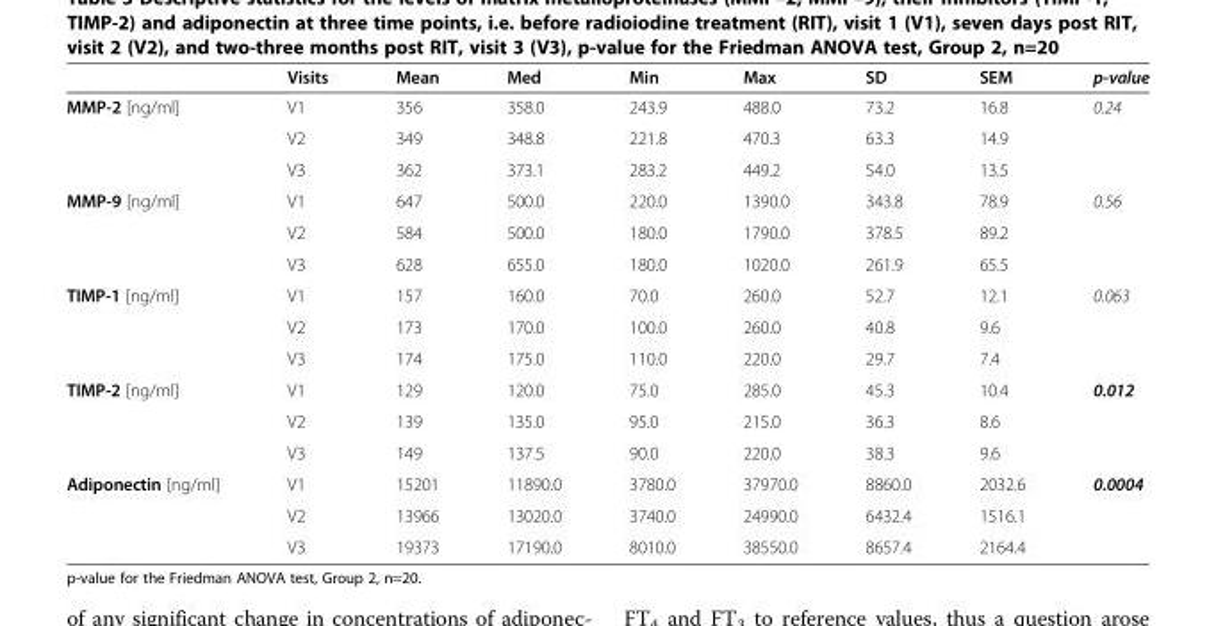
<table><thead><tr><td></td><td>Visits</td><td>Mean</td><td>Med</td><td>Min</td><td>Max</td><td>SD</td><td>SEM</td><td>p-value</td></tr></thead><tbody><tr><td rowspan="3">MMP-2 [ng/ml]</td><td>V1</td><td>356</td><td>358.0</td><td>243.9</td><td>488.0</td><td>73.2</td><td>16.8</td><td rowspan="3">0.24</td></tr><tr><td>V2</td><td>349</td><td>348.8</td><td>221.8</td><td>470.3</td><td>63.3</td><td>14.9</td></tr><tr><td>V3</td><td>362</td><td>373.1</td><td>283.2</td><td>449.2</td><td>54.0</td><td>13.5</td></tr><tr><td rowspan="3">MMP-9 [ng/ml]</td><td>V1</td><td>647</td><td>500.0</td><td>220.0</td><td>1390.0</td><td>343.8</td><td>78.9</td><td rowspan="3">0.56</td></tr><tr><td>V2</td><td>584</td><td>500.0</td><td>180.0</td><td>1790.0</td><td>378.5</td><td>89.2</td></tr><tr><td>V3</td><td>628</td><td>655.0</td><td>180.0</td><td>1020.0</td><td>261.9</td><td>65.5</td></tr><tr><td rowspan="3">TIMP-1 [ng/ml]</td><td>V1</td><td>157</td><td>160.0</td><td>70.0</td><td>260.0</td><td>52.7</td><td>12.1</td><td rowspan="3">0.063</td></tr><tr><td>V2</td><td>173</td><td>170.0</td><td>100.0</td><td>260.0</td><td>40.8</td><td>9.6</td></tr><tr><td>V3</td><td>174</td><td>175.0</td><td>110.0</td><td>220.0</td><td>29.7</td><td>7.4</td></tr><tr><td rowspan="3">TIMP-2 [ng/ml]</td><td>V1</td><td>129</td><td>120.0</td><td>75.0</td><td>285.0</td><td>45.3</td><td>10.4</td><td rowspan="3">0.012</td></tr><tr><td>V2</td><td>139</td><td>135.0</td><td>95.0</td><td>215.0</td><td>36.3</td><td>8.6</td></tr><tr><td>V3</td><td>149</td><td>137.5</td><td>90.0</td><td>220.0</td><td>38.3</td><td>9.6</td></tr><tr><td rowspan="3">Adiponectin [ng/ml]</td><td>V1</td><td>15201</td><td>11890.0</td><td>3780.0</td><td>37970.0</td><td>8860.0</td><td>2032.6</td><td rowspan="2">0.0004</td></tr><tr><td>V2</td><td>13966</td><td>13020.0</td><td>3740.0</td><td>24990.0</td><td>6432.4</td><td>1516.1</td></tr><tr><td>V3</td><td>19373</td><td>17190.0</td><td>8010.0</td><td>38550.0</td><td>8657.4</td><td>2164.4</td><td></td></tr></tbody></table>